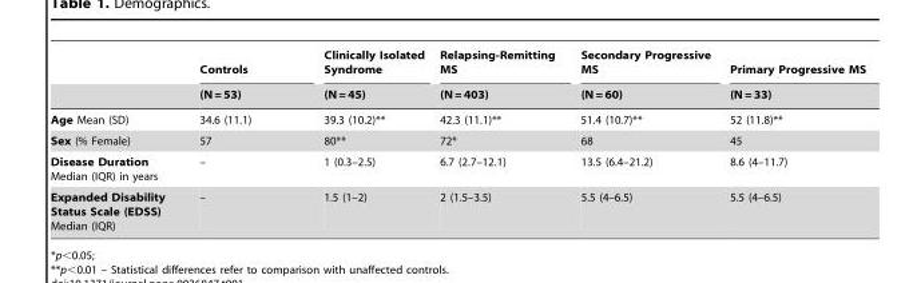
<table><thead><tr><td rowspan="2"></td><td rowspan="2">Controls (N = 53)</td><td rowspan="2">Clinically Isolated Syndrome (N = 45)</td><td rowspan="2">Relapsing-Remitting MS (N = 403)</td><td rowspan="2">Secondary Progressive MS (N = 60)</td><td rowspan="2">Primary Progressive MS (N = 33)</td></tr><tr></tr></thead><tbody><tr><td>Age Mean (SD)</td><td>34.6 (11.1)</td><td>39.3 (10.2)**</td><td>42.3 (11.1)**</td><td>51.4 (10.7)**</td><td>52 (11.8)**</td></tr><tr><td>Sex (% Female)</td><td>57</td><td>80**</td><td>72*</td><td>68</td><td>45</td></tr><tr><td>Disease Duration Median (IQR) in years</td><td>–</td><td>1 (0.3–2.5)</td><td>6.7 (2.7–12.1)</td><td>13.5 (6.4–21.2)</td><td>8.6 (4–11.7)</td></tr><tr><td>Expanded Disability Status Scale (EDSS) Median (IQR)</td><td>–</td><td>1.5 (1–2)</td><td>2 (1.5–3.5)</td><td>5.5 (4–6.5)</td><td>5.5 (4–6.5)</td></tr></tbody></table>